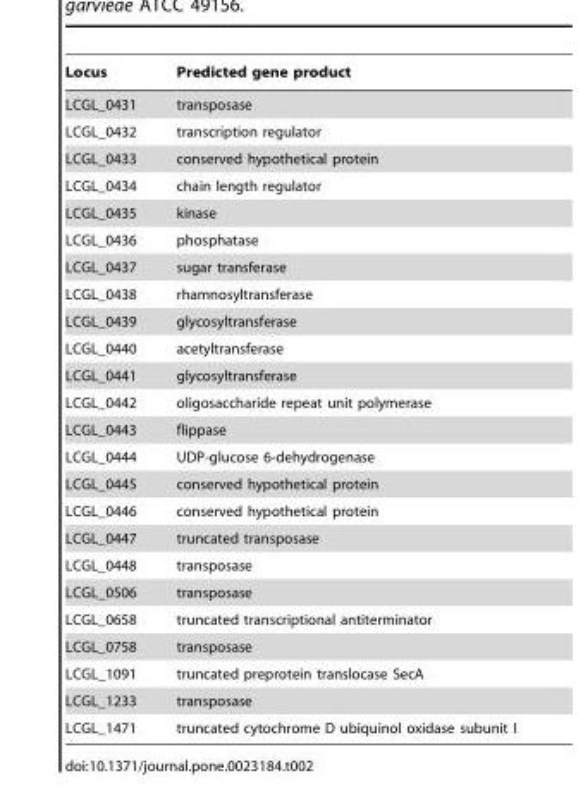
<table><thead><tr><td>Locus</td><td>Predicted gene product</td></tr></thead><tbody><tr><td>LCGL_0431</td><td>transposase</td></tr><tr><td>LCGL_0432</td><td>transcription regulator</td></tr><tr><td>LCGL_0433</td><td>conserved hypothetical protein</td></tr><tr><td>LCGL_0434</td><td>chain length regulator</td></tr><tr><td>LCGL_0435</td><td>kinase</td></tr><tr><td>LCGL_0436</td><td>phosphatase</td></tr><tr><td>LCGL_0437</td><td>sugar transferase</td></tr><tr><td>LCGL_0438</td><td>rhamnosyltransferase</td></tr><tr><td>LCGL_0439</td><td>glycosyltransferase</td></tr><tr><td>LCGL_0440</td><td>acetyltransferase</td></tr><tr><td>LCGL_0441</td><td>glycosyltransferase</td></tr><tr><td>LCGL_0442</td><td>oligosaccharide repeat unit polymerase</td></tr><tr><td>LCGL_0443</td><td>flippase</td></tr><tr><td>LCGL_0444</td><td>UDP-glucose 6-dehydrogenase</td></tr><tr><td>LCGL_0445</td><td>conserved hypothetical protein</td></tr><tr><td>LCGL_0446</td><td>conserved hypothetical protein</td></tr><tr><td>LCGL_0447</td><td>truncated transposase</td></tr><tr><td>LCGL_0448</td><td>transposase</td></tr><tr><td>LCGL_0506</td><td>transposase</td></tr><tr><td>LCGL_0658</td><td>truncated transcriptional antiterminator</td></tr><tr><td>LCGL_0758</td><td>transposase</td></tr><tr><td>LCGL_1091</td><td>truncated preprotein translocase SecA</td></tr><tr><td>LCGL_1233</td><td>transposase</td></tr><tr><td>LCGL_1471</td><td>truncated cytochrome D ubiquinol oxidase subunit I</td></tr></tbody></table>